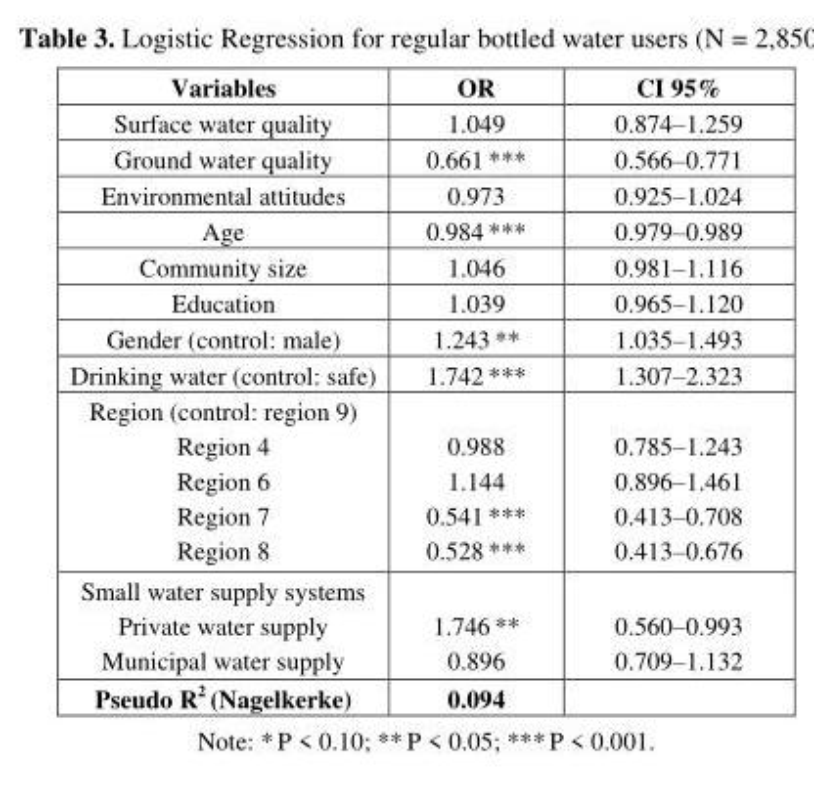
<table><thead><tr><td>Variables</td><td>OR</td><td>CI 95%</td></tr></thead><tbody><tr><td>Surface water quality</td><td>1.049</td><td>0.874–1.259</td></tr><tr><td>Ground water quality</td><td>0.661 ***</td><td>0.566–0.771</td></tr><tr><td>Environmental attitudes</td><td>0.973</td><td>0.925–1.024</td></tr><tr><td>Age</td><td>0.984 ***</td><td>0.979–0.989</td></tr><tr><td>Community size</td><td>1.046</td><td>0.981–1.116</td></tr><tr><td>Education</td><td>1.039</td><td>0.965–1.120</td></tr><tr><td>Gender (control: male)</td><td>1.243 **</td><td>1.035–1.493</td></tr><tr><td>Drinking water (control: safe)</td><td>1.742 ***</td><td>1.307–2.323</td></tr><tr><td>Region (control: region 9) Region 4 Region 6 Region 7 Region 8</td><td>0.988 1.144 0.541 *** 0.528 ***</td><td>0.785–1.243 0.896–1.461 0.413–0.708 0.413–0.676</td></tr><tr><td>Small water supply systems Private water supply Municipal water supply</td><td>1.746 ** 0.896</td><td>0.560–0.993 0.709–1.132</td></tr><tr><td>Pseudo R<sup>2</sup> (Nagelkerke)</td><td>0.094</td><td></td></tr></tbody></table>